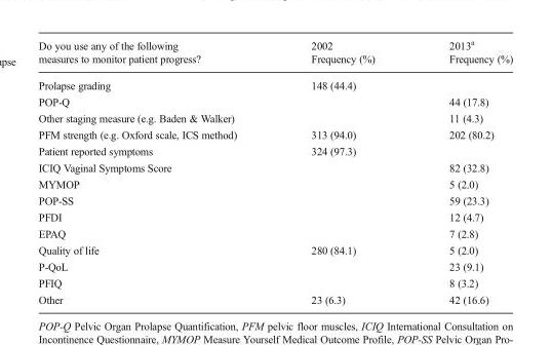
<table><thead><tr><td rowspan="2">Do you use any of the following measures to monitor patient progress?</td><td rowspan="2">2002 Frequency (%)</td><td rowspan="2">2013<sup>a</sup> Frequency (%)</td></tr><tr></tr></thead><tbody><tr><td>Prolapse grading</td><td>148 (44.4)</td><td></td></tr><tr><td>POP-Q</td><td></td><td>44 (17.8)</td></tr><tr><td>Other staging measure (e.g. Baden &amp; Walker)</td><td></td><td>11 (4.3)</td></tr><tr><td>PFM strength (e.g. Oxford scale, ICS method)</td><td>313 (94.0)</td><td>202 (80.2)</td></tr><tr><td>Patient reported symptoms</td><td>324 (97.3)</td><td></td></tr><tr><td>ICIQ Vaginal Symptoms Score</td><td></td><td>82 (32.8)</td></tr><tr><td>MYMOP</td><td></td><td>5 (2.0)</td></tr><tr><td>POP-SS</td><td></td><td>59 (23.3)</td></tr><tr><td>PFDI</td><td></td><td>12 (4.7)</td></tr><tr><td>EPAQ</td><td></td><td>7 (2.8)</td></tr><tr><td>Quality of life</td><td>280 (84.1)</td><td>5 (2.0)</td></tr><tr><td>P-QoL</td><td></td><td>23 (9.1)</td></tr><tr><td>PFIQ</td><td></td><td>8 (3.2)</td></tr><tr><td>Other</td><td>23 (6.3)</td><td>42 (16.6)</td></tr></tbody></table>